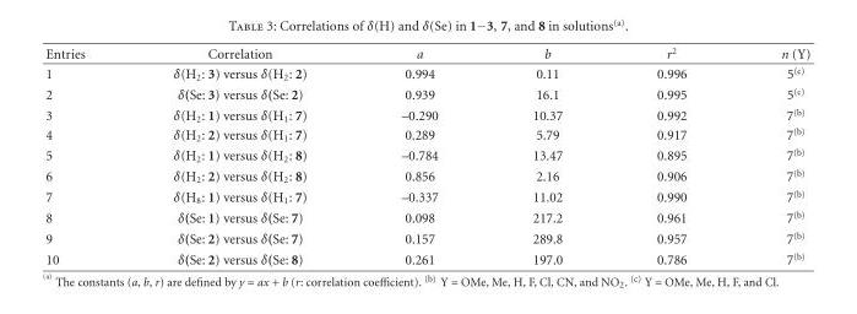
<table><thead><tr><td>Entries</td><td>Correlation</td><td>a</td><td>b</td><td>r<sup>2</sup></td><td>n (Y)</td></tr></thead><tbody><tr><td>1</td><td>δ(H<sub>2</sub>: 3) versus δ(H<sub>2</sub>: 2)</td><td>0.994</td><td>0.11</td><td>0.996</td><td>5<sup>(c)</sup></td></tr><tr><td>2</td><td>δ(Se: 3) versus δ(Se: 2)</td><td>0.939</td><td>16.1</td><td>0.995</td><td>5<sup>(c)</sup></td></tr><tr><td>3</td><td>δ(H<sub>2</sub>: 1) versus δ(H<sub>1</sub>: 7)</td><td>–0.290</td><td>10.37</td><td>0.992</td><td>7<sup>(b)</sup></td></tr><tr><td>4</td><td>δ(H<sub>2</sub>: 2) versus δ(H<sub>1</sub>: 7)</td><td>0.289</td><td>5.79</td><td>0.917</td><td>7<sup>(b)</sup></td></tr><tr><td>5</td><td>δ(H<sub>2</sub>: 1) versus δ(H<sub>2</sub>: 8)</td><td>–0.784</td><td>13.47</td><td>0.895</td><td>7<sup>(b)</sup></td></tr><tr><td>6</td><td>δ(H<sub>2</sub>: 2) versus δ(H<sub>2</sub>: 8)</td><td>0.856</td><td>2.16</td><td>0.906</td><td>7<sup>(b)</sup></td></tr><tr><td>7</td><td>δ(H<sub>8</sub>: 1) versus δ(H<sub>1</sub>: 7)</td><td>–0.337</td><td>11.02</td><td>0.990</td><td>7<sup>(b)</sup></td></tr><tr><td>8</td><td>δ(Se: 1) versus δ(Se: 7)</td><td>0.098</td><td>217.2</td><td>0.961</td><td>7<sup>(b)</sup></td></tr><tr><td>9</td><td>δ(Se: 2) versus δ(Se: 7)</td><td>0.157</td><td>289.8</td><td>0.957</td><td>7<sup>(b)</sup></td></tr><tr><td>10</td><td>δ(Se: 2) versus δ(Se: 8)</td><td>0.261</td><td>197.0</td><td>0.786</td><td>7<sup>(b)</sup></td></tr></tbody></table>